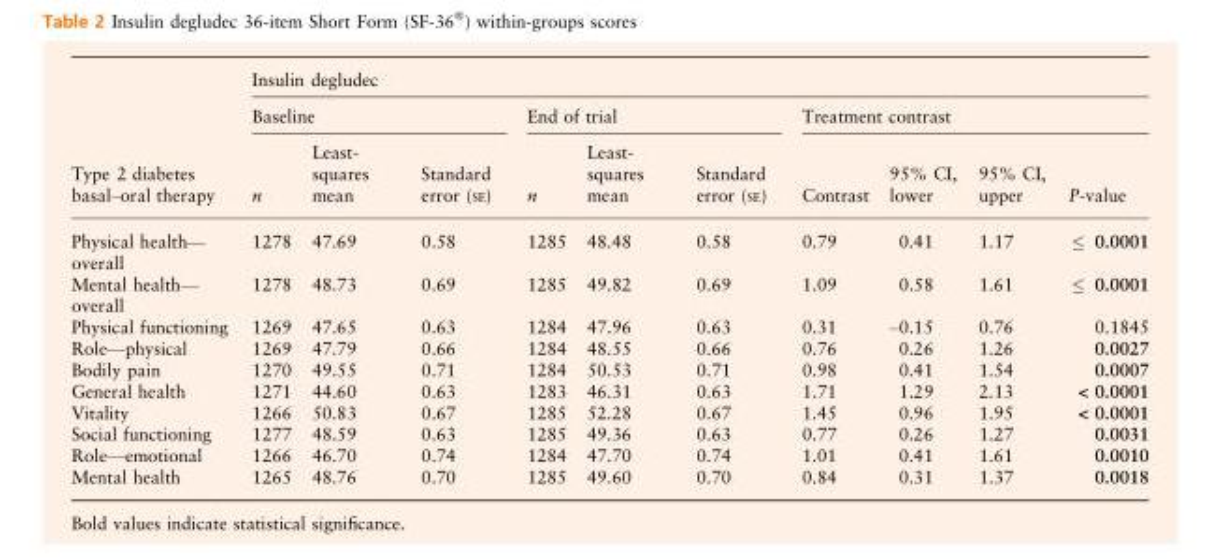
<table><thead><tr><td rowspan="3">Type 2 diabetes basal–oral therapy</td><td colspan="10">Insulin degludec</td></tr><tr><td colspan="3">Baseline</td><td colspan="3">End of trial</td><td colspan="4">Treatment contrast</td></tr><tr><td>n</td><td>Least- squares mean</td><td>Standard error (SE)</td><td>n</td><td>Least- squares mean</td><td>Standard error (SE)</td><td>Contrast</td><td>95% CI, lower</td><td>95% CI, upper</td><td>P-value</td></tr></thead><tbody><tr><td>Physical health— overall</td><td>1278</td><td>47.69</td><td>0.58</td><td>1285</td><td>48.48</td><td>0.58</td><td>0.79</td><td>0.41</td><td>1.17</td><td>≤ 0.0001</td></tr><tr><td>Mental health— overall</td><td>1278</td><td>48.73</td><td>0.69</td><td>1285</td><td>49.82</td><td>0.69</td><td>1.09</td><td>0.58</td><td>1.61</td><td>≤ 0.0001</td></tr><tr><td>Physical functioning</td><td>1269</td><td>47.65</td><td>0.63</td><td>1284</td><td>47.96</td><td>0.63</td><td>0.31</td><td>–0.15</td><td>0.76</td><td>0.1845</td></tr><tr><td>Role—physical</td><td>1269</td><td>47.79</td><td>0.66</td><td>1284</td><td>48.55</td><td>0.66</td><td>0.76</td><td>0.26</td><td>1.26</td><td>0.0027</td></tr><tr><td>Bodily pain</td><td>1270</td><td>49.55</td><td>0.71</td><td>1284</td><td>50.53</td><td>0.71</td><td>0.98</td><td>0.41</td><td>1.54</td><td>0.0007</td></tr><tr><td>General health</td><td>1271</td><td>44.60</td><td>0.63</td><td>1283</td><td>46.31</td><td>0.63</td><td>1.71</td><td>1.29</td><td>2.13</td><td>&lt; 0.0001</td></tr><tr><td>Vitality</td><td>1266</td><td>50.83</td><td>0.67</td><td>1285</td><td>52.28</td><td>0.67</td><td>1.45</td><td>0.96</td><td>1.95</td><td>&lt; 0.0001</td></tr><tr><td>Social functioning</td><td>1277</td><td>48.59</td><td>0.63</td><td>1285</td><td>49.36</td><td>0.63</td><td>0.77</td><td>0.26</td><td>1.27</td><td>0.0031</td></tr><tr><td>Role—emotional</td><td>1266</td><td>46.70</td><td>0.74</td><td>1284</td><td>47.70</td><td>0.74</td><td>1.01</td><td>0.41</td><td>1.61</td><td>0.0010</td></tr><tr><td>Mental health</td><td>1265</td><td>48.76</td><td>0.70</td><td>1285</td><td>49.60</td><td>0.70</td><td>0.84</td><td>0.31</td><td>1.37</td><td>0.0018</td></tr></tbody></table>